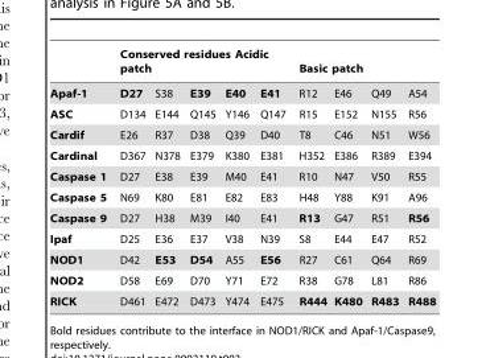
<table><thead><tr><td rowspan="2">Apaf-1</td><td colspan="5">Conserved residues Acidic patch</td><td colspan="4">Basic patch</td></tr><tr><td>D27</td><td>S38</td><td>E39</td><td>E40</td><td>E41</td><td>R12</td><td>E46</td><td>Q49</td><td>A54</td></tr></thead><tbody><tr><td>ASC</td><td>D134</td><td>E144</td><td>Q145</td><td>Y146</td><td>Q147</td><td>R15</td><td>E152</td><td>N155</td><td>R56</td></tr><tr><td>Cardif</td><td>E26</td><td>R37</td><td>D38</td><td>Q39</td><td>D40</td><td>T8</td><td>C46</td><td>N51</td><td>W56</td></tr><tr><td>Cardinal</td><td>D367</td><td>N378</td><td>E379</td><td>K380</td><td>E381</td><td>H352</td><td>E386</td><td>R389</td><td>E394</td></tr><tr><td>Caspase 1</td><td>D27</td><td>E38</td><td>E39</td><td>M40</td><td>E41</td><td>R10</td><td>N47</td><td>V50</td><td>R55</td></tr><tr><td>Caspase 5</td><td>N69</td><td>K80</td><td>E81</td><td>E82</td><td>E83</td><td>H48</td><td>Y88</td><td>K91</td><td>A96</td></tr><tr><td>Caspase 9</td><td>D27</td><td>H38</td><td>M39</td><td>I40</td><td>E41</td><td>R13</td><td>G47</td><td>R51</td><td>R56</td></tr><tr><td>Ipaf</td><td>D25</td><td>E36</td><td>E37</td><td>V38</td><td>N39</td><td>S8</td><td>E44</td><td>E47</td><td>R52</td></tr><tr><td>NOD1</td><td>D42</td><td>E53</td><td>D54</td><td>A55</td><td>E56</td><td>R27</td><td>C61</td><td>Q64</td><td>R69</td></tr><tr><td>NOD2</td><td>D58</td><td>E69</td><td>D70</td><td>Y71</td><td>E72</td><td>R38</td><td>G78</td><td>L81</td><td>R86</td></tr><tr><td>RICK</td><td>D461</td><td>E472</td><td>D473</td><td>Y474</td><td>E475</td><td>R444</td><td>K480</td><td>R483</td><td>R488</td></tr></tbody></table>